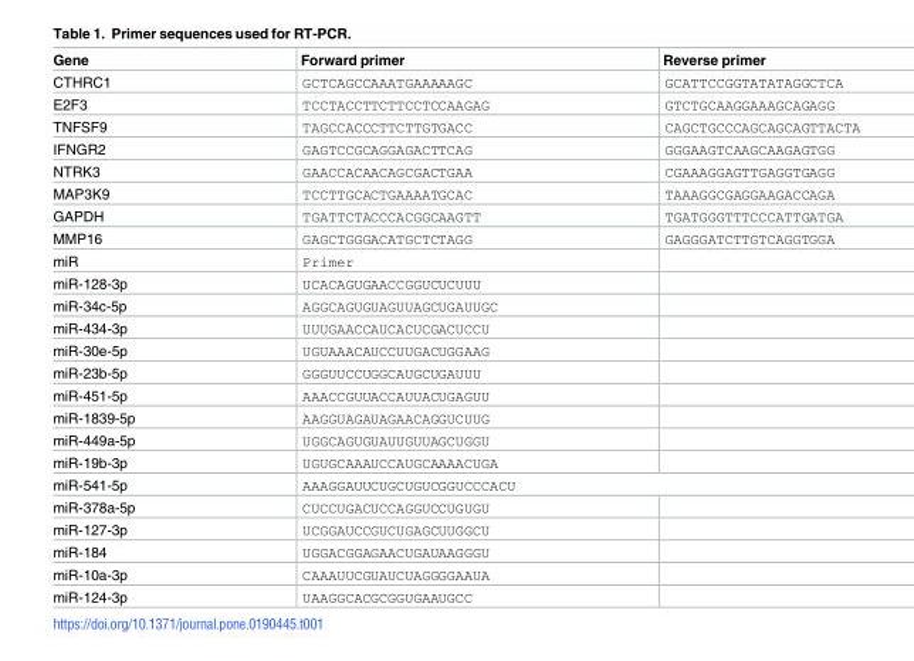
<table><thead><tr><td>Gene</td><td>Forward primer</td><td>Reverse primer</td></tr></thead><tbody><tr><td>CTHRC1</td><td>GCTCAGCCAAATGAAAAAGC</td><td>GCATTCCGGTATATAGGCTCA</td></tr><tr><td>E2F3</td><td>TCCTACCTTCTTCCTCCAAGAG</td><td>GTCTGCAAGGAAAGCAGAGG</td></tr><tr><td>TNFSF9</td><td>TAGCCACCCTTCTTGTGACC</td><td>CAGCTGCCCAGCAGCAGTTACTA</td></tr><tr><td>IFNGR2</td><td>GAGTCCGCAGGAGACTTCAG</td><td>GGGAAGTCAAGCAAGAGTGG</td></tr><tr><td>NTRK3</td><td>GAACCACAACAGCGACTGAA</td><td>CGAAAGGAGTTGAGGTGAGG</td></tr><tr><td>MAP3K9</td><td>TCCTTGCACTGAAAATGCAC</td><td>TAAAGGCGAGGAAGACCAGA</td></tr><tr><td>GAPDH</td><td>TGATTCTACCCACGGCAAGTT</td><td>TGATGGGTTTCCCATTGATGA</td></tr><tr><td>MMP16</td><td>GAGCTGGGACATGCTCTAGG</td><td>GAGGGATCTTGTCAGGTGGA</td></tr><tr><td>miR</td><td>Primer</td><td></td></tr><tr><td>miR-128-3p</td><td>UCACAGUGAACCGGUCUCUUU</td><td></td></tr><tr><td>miR-34c-5p</td><td>AGGCAGUGUAGUUAGCUGAUUGC</td><td></td></tr><tr><td>miR-434-3p</td><td>UUUGAACCAUCACUCGACUCCU</td><td></td></tr><tr><td>miR-30e-5p</td><td>UGUAAACAUCCUUGACUGGAAG</td><td></td></tr><tr><td>miR-23b-5p</td><td>GGGUUCCUGGCAUGCUGAUUU</td><td></td></tr><tr><td>miR-451-5p</td><td>AAACCGUUACCAUUACUGAGUU</td><td></td></tr><tr><td>miR-1839-5p</td><td>AAGGUAGAUAGAACAGGUCUUG</td><td></td></tr><tr><td>miR-449a-5p</td><td>UGGCAGUGUAUUGUUAGCUGGU</td><td></td></tr><tr><td>miR-19b-3p</td><td>UGUGCAAAUCCAUGCAAAACUGA</td><td></td></tr><tr><td>miR-541-5p</td><td colspan="2">AAAGGAUUCUGCUGUCGGUCCCACU</td></tr><tr><td>miR-378a-5p</td><td>CUCCUGACUCCAGGUCCUGUGU</td><td></td></tr><tr><td>miR-127-3p</td><td>UCGGAUCCGUCUGAGCUUGGCU</td><td></td></tr><tr><td>miR-184</td><td>UGGACGGAGAACUGAUAAGGGU</td><td></td></tr><tr><td>miR-10a-3p</td><td>CAAAUUCGUAUCUAGGGGAAUA</td><td></td></tr><tr><td>miR-124-3p</td><td>UAAGGCACGCGGUGAAUGCC</td><td></td></tr></tbody></table>